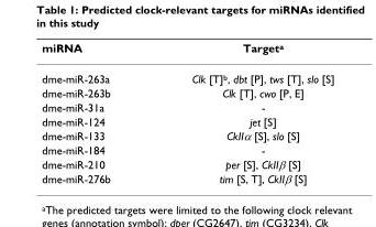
<table><thead><tr><td>miRNA</td><td>Target<sup>a</sup></td></tr></thead><tbody><tr><td>dme-miR-263a</td><td>Clk [T]<sup>b</sup>, dbt [P], tws [T], slo [S]</td></tr><tr><td>dme-miR-263b</td><td>Clk [T], cwo [P, E]</td></tr><tr><td>dme-miR-31a</td><td>-</td></tr><tr><td>dme-miR-124</td><td>jet [S]</td></tr><tr><td>dme-miR-133</td><td>CkIIα [S], slo [S]</td></tr><tr><td>dme-miR-184</td><td>-</td></tr><tr><td>dme-miR-210</td><td>per [S], CkIIβ [S]</td></tr><tr><td>dme-miR-276b</td><td>tim [S, T], CkIIβ [S]</td></tr></tbody></table>